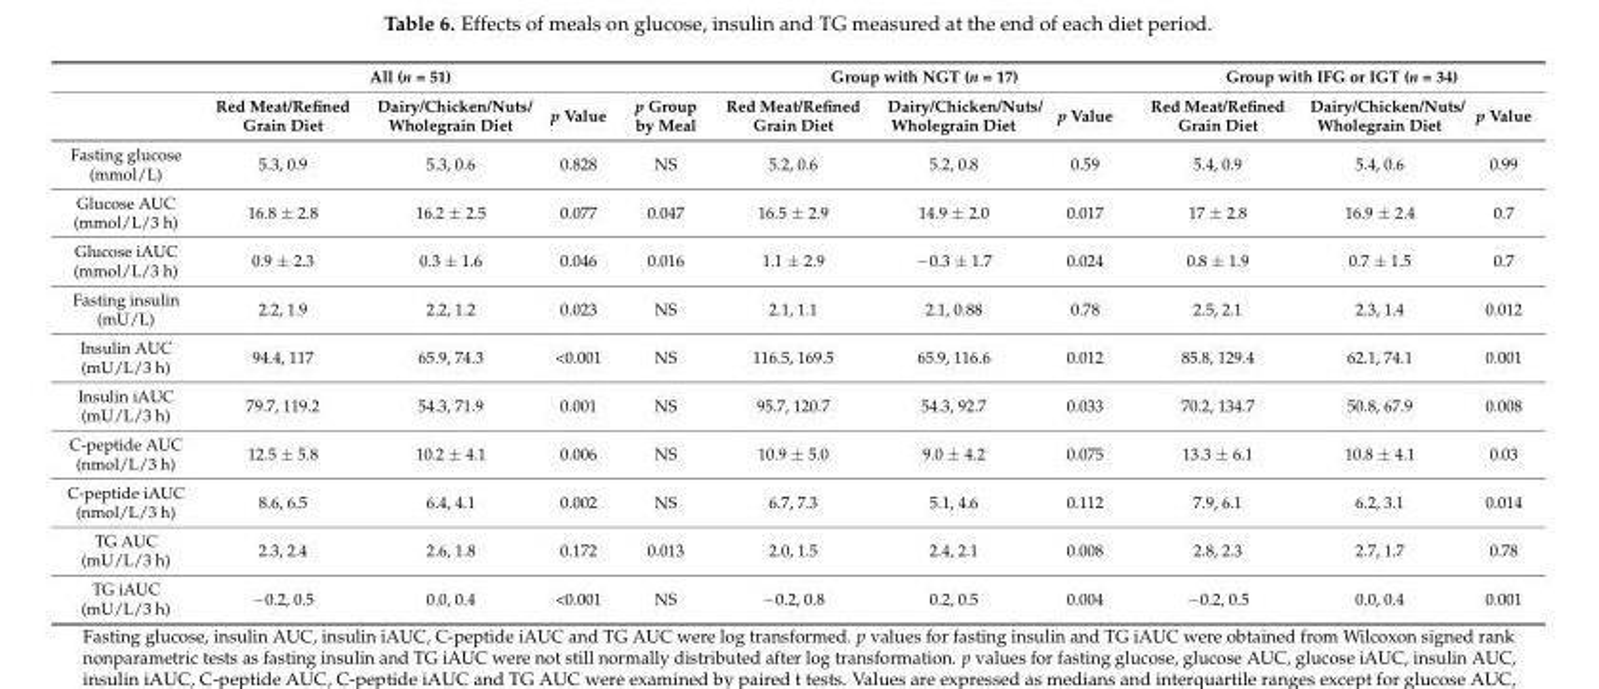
<table><thead><tr><td rowspan="2"></td><td colspan="3">All (n = 51)</td><td rowspan="2">p Group by Meal</td><td colspan="3">Group with NGT (n = 17)</td><td colspan="3">Group with IFG or IGT (n = 34)</td></tr><tr><td>Red Meat/Refined Grain Diet</td><td>Dairy/Chicken/Nuts/ Wholegrain Diet</td><td>p Value</td><td>Red Meat/Refined Grain Diet</td><td>Dairy/Chicken/Nuts/ Wholegrain Diet</td><td>p Value</td><td>Red Meat/Refined Grain Diet</td><td>Dairy/Chicken/Nuts/ Wholegrain Diet</td><td>p Value</td></tr></thead><tbody><tr><td>Fasting glucose (mmol/L)</td><td>5.3, 0.9</td><td>5.3, 0.6</td><td>0.828</td><td>NS</td><td>5.2, 0.6</td><td>5.2, 0.8</td><td>0.59</td><td>5.4, 0.9</td><td>5.4, 0.6</td><td>0.99</td></tr><tr><td>Glucose AUC (mmol/L/3 h)</td><td>16.8 ± 2.8</td><td>16.2 ± 2.5</td><td>0.077</td><td>0.047</td><td>16.5 ± 2.9</td><td>14.9 ± 2.0</td><td>0.017</td><td>17 ± 2.8</td><td>16.9 ± 2.4</td><td>0.7</td></tr><tr><td>Glucose iAUC (mmol/L/3 h)</td><td>0.9 ± 2.3</td><td>0.3 ± 1.6</td><td>0.046</td><td>0.016</td><td>1.1 ± 2.9</td><td>−0.3 ± 1.7</td><td>0.024</td><td>0.8 ± 1.9</td><td>0.7 ± 1.5</td><td>0.7</td></tr><tr><td>Fasting insulin (mU/L)</td><td>2.2, 1.9</td><td>2.2, 1.2</td><td>0.023</td><td>NS</td><td>2.1, 1.1</td><td>2.1, 0.88</td><td>0.78</td><td>2.5, 2.1</td><td>2.3, 1.4</td><td>0.012</td></tr><tr><td>Insulin AUC (mU/L/3 h)</td><td>94.4, 117</td><td>65.9, 74.3</td><td>&lt;0.001</td><td>NS</td><td>116.5, 169.5</td><td>65.9, 116.6</td><td>0.012</td><td>85.8, 129.4</td><td>62.1, 74.1</td><td>0.001</td></tr><tr><td>Insulin iAUC (mU/L/3 h)</td><td>79.7, 119.2</td><td>54.3, 71.9</td><td>0.001</td><td>NS</td><td>95.7, 120.7</td><td>54.3, 92.7</td><td>0.033</td><td>70.2, 134.7</td><td>50.8, 67.9</td><td>0.008</td></tr><tr><td>C-peptide AUC (nmol/L/3 h)</td><td>12.5 ± 5.8</td><td>10.2 ± 4.1</td><td>0.006</td><td>NS</td><td>10.9 ± 5.0</td><td>9.0 ± 4.2</td><td>0.075</td><td>13.3 ± 6.1</td><td>10.8 ± 4.1</td><td>0.03</td></tr><tr><td>C-peptide iAUC (nmol/L/3 h)</td><td>8.6, 6.5</td><td>6.4, 4.1</td><td>0.002</td><td>NS</td><td>6.7, 7.3</td><td>5.1, 4.6</td><td>0.112</td><td>7.9, 6.1</td><td>6.2, 3.1</td><td>0.014</td></tr><tr><td>TG AUC (mU/L/3 h)</td><td>2.3, 2.4</td><td>2.6, 1.8</td><td>0.172</td><td>0.013</td><td>2.0, 1.5</td><td>2.4, 2.1</td><td>0.008</td><td>2.8, 2.3</td><td>2.7, 1.7</td><td>0.78</td></tr><tr><td>TG iAUC (mU/L/3 h)</td><td>−0.2, 0.5</td><td>0.0, 0.4</td><td>&lt;0.001</td><td>NS</td><td>−0.2, 0.8</td><td>0.2, 0.5</td><td>0.004</td><td>−0.2, 0.5</td><td>0.0, 0.4</td><td>0.001</td></tr></tbody></table>